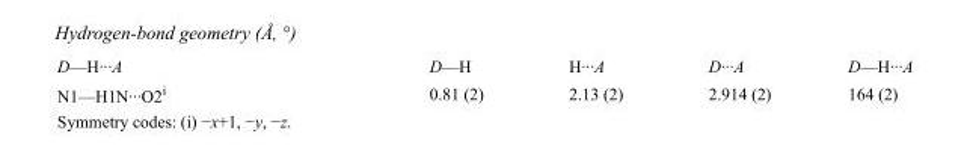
<table><tbody><tr><td>D—H···A</td><td>D—H</td><td>H···A</td><td>D···A</td><td>D—H···A</td></tr><tr><td>N1—H1N···O2<sup>i</sup></td><td>0.81 (2)</td><td>2.13 (2)</td><td>2.914 (2)</td><td>164 (2)</td></tr></tbody></table>